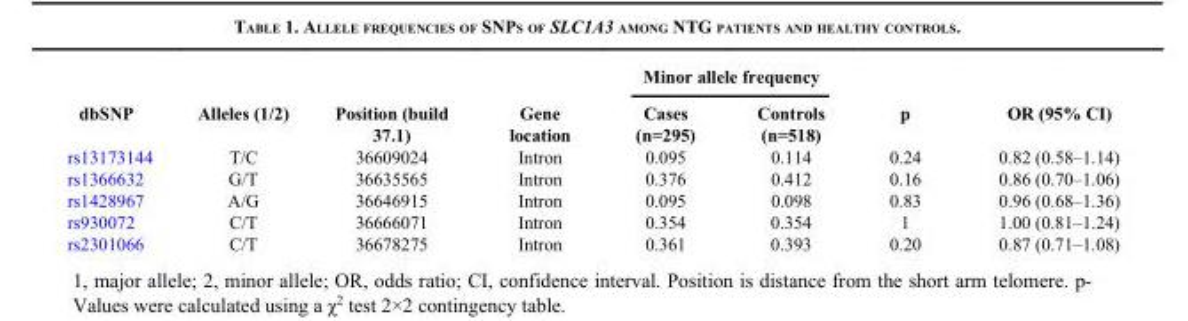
<table><thead><tr><td rowspan="2">dbSNP</td><td rowspan="2">Alleles (1/2)</td><td rowspan="2">Position (build 37.1)</td><td rowspan="2">Gene location</td><td colspan="2">Minor allele frequency</td><td rowspan="2">p</td><td rowspan="2">OR (95% CI)</td></tr><tr><td>Cases (n=295)</td><td>Controls (n=518)</td></tr></thead><tbody><tr><td>rs13173144</td><td>T/C</td><td>36609024</td><td>Intron</td><td>0.095</td><td>0.114</td><td>0.24</td><td>0.82 (0.58–1.14)</td></tr><tr><td>rs1366632</td><td>G/T</td><td>36635565</td><td>Intron</td><td>0.376</td><td>0.412</td><td>0.16</td><td>0.86 (0.70–1.06)</td></tr><tr><td>rs1428967</td><td>A/G</td><td>36646915</td><td>Intron</td><td>0.095</td><td>0.098</td><td>0.83</td><td>0.96 (0.68–1.36)</td></tr><tr><td>rs930072</td><td>C/T</td><td>36666071</td><td>Intron</td><td>0.354</td><td>0.354</td><td>1</td><td>1.00 (0.81–1.24)</td></tr><tr><td>rs2301066</td><td>C/T</td><td>36678275</td><td>Intron</td><td>0.361</td><td>0.393</td><td>0.20</td><td>0.87 (0.71–1.08)</td></tr></tbody></table>